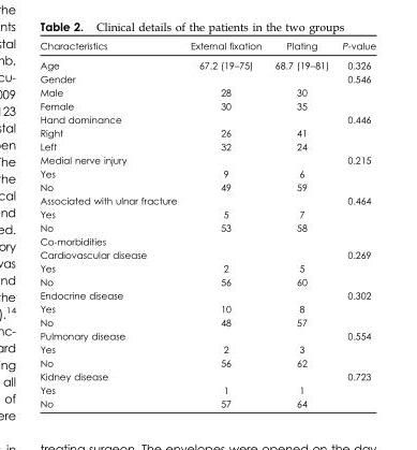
<table><thead><tr><td>Characteristics</td><td>External fixation</td><td>Plating</td><td>P-value</td></tr></thead><tbody><tr><td>Age</td><td>67.2 (19–75)</td><td>68.7 (19–81)</td><td>0.326</td></tr><tr><td>Gender</td><td></td><td></td><td>0.546</td></tr><tr><td>Male</td><td>28</td><td>30</td><td></td></tr><tr><td>Female</td><td>30</td><td>35</td><td></td></tr><tr><td>Hand dominance</td><td></td><td></td><td>0.446</td></tr><tr><td>Right</td><td>26</td><td>41</td><td></td></tr><tr><td>Left</td><td>32</td><td>24</td><td></td></tr><tr><td>Medial nerve injury</td><td></td><td></td><td>0.215</td></tr><tr><td>Yes</td><td>9</td><td>6</td><td></td></tr><tr><td>No</td><td>49</td><td>59</td><td></td></tr><tr><td>Associated with ulnar fracture</td><td></td><td></td><td>0.464</td></tr><tr><td>Yes</td><td>5</td><td>7</td><td></td></tr><tr><td>No</td><td>53</td><td>58</td><td></td></tr><tr><td colspan="4">Co-morbidities</td></tr><tr><td>Cardiovascular disease</td><td></td><td></td><td>0.269</td></tr><tr><td>Yes</td><td>2</td><td>5</td><td></td></tr><tr><td>No</td><td>56</td><td>60</td><td></td></tr><tr><td>Endocrine disease</td><td></td><td></td><td>0.302</td></tr><tr><td>Yes</td><td>10</td><td>8</td><td></td></tr><tr><td>No</td><td>48</td><td>57</td><td></td></tr><tr><td>Pulmonary disease</td><td></td><td></td><td>0.554</td></tr><tr><td>Yes</td><td>2</td><td>3</td><td></td></tr><tr><td>No</td><td>56</td><td>62</td><td></td></tr><tr><td>Kidney disease</td><td></td><td></td><td>0.723</td></tr><tr><td>Yes</td><td>1</td><td>1</td><td></td></tr><tr><td>No</td><td>57</td><td>64</td><td></td></tr></tbody></table>